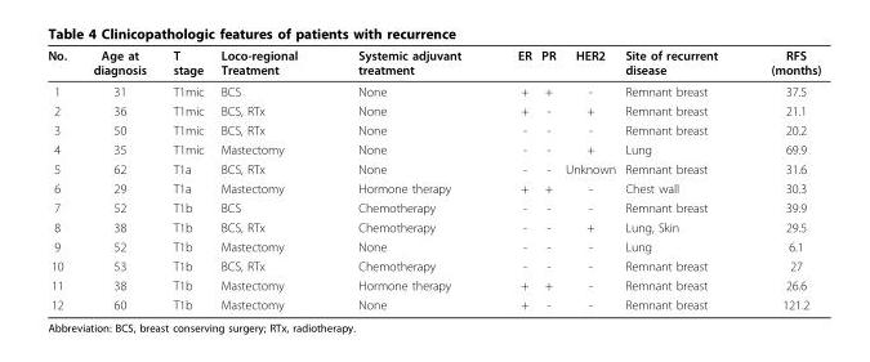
<table><thead><tr><td>No.</td><td>Age at diagnosis</td><td>T stage</td><td>Loco-regional Treatment</td><td>Systemic adjuvant treatment</td><td>ER</td><td>PR</td><td>HER2</td><td>Site of recurrent disease</td><td>RFS (months)</td></tr></thead><tbody><tr><td>1</td><td>31</td><td>T1mic</td><td>BCS</td><td>None</td><td>+</td><td>+</td><td>-</td><td>Remnant breast</td><td>37.5</td></tr><tr><td>2</td><td>36</td><td>T1mic</td><td>BCS, RTx</td><td>None</td><td>+</td><td>-</td><td>+</td><td>Remnant breast</td><td>21.1</td></tr><tr><td>3</td><td>50</td><td>T1mic</td><td>BCS, RTx</td><td>None</td><td>-</td><td>-</td><td>-</td><td>Remnant breast</td><td>20.2</td></tr><tr><td>4</td><td>35</td><td>T1mic</td><td>Mastectomy</td><td>None</td><td>-</td><td>-</td><td>+</td><td>Lung</td><td>69.9</td></tr><tr><td>5</td><td>62</td><td>T1a</td><td>BCS, RTx</td><td>None</td><td>-</td><td>-</td><td>Unknown</td><td>Remnant breast</td><td>31.6</td></tr><tr><td>6</td><td>29</td><td>T1a</td><td>Mastectomy</td><td>Hormone therapy</td><td>+</td><td>+</td><td>-</td><td>Chest wall</td><td>30.3</td></tr><tr><td>7</td><td>52</td><td>T1b</td><td>BCS</td><td>Chemotherapy</td><td>-</td><td>-</td><td>-</td><td>Remnant breast</td><td>39.9</td></tr><tr><td>8</td><td>38</td><td>T1b</td><td>BCS, RTx</td><td>Chemotherapy</td><td>-</td><td>-</td><td>+</td><td>Lung, Skin</td><td>29.5</td></tr><tr><td>9</td><td>52</td><td>T1b</td><td>Mastectomy</td><td>None</td><td>-</td><td>-</td><td>-</td><td>Lung</td><td>6.1</td></tr><tr><td>10</td><td>53</td><td>T1b</td><td>BCS, RTx</td><td>Chemotherapy</td><td>-</td><td>-</td><td>-</td><td>Remnant breast</td><td>27</td></tr><tr><td>11</td><td>38</td><td>T1b</td><td>Mastectomy</td><td>Hormone therapy</td><td>+</td><td>+</td><td>-</td><td>Remnant breast</td><td>26.6</td></tr><tr><td>12</td><td>60</td><td>T1b</td><td>Mastectomy</td><td>None</td><td>+</td><td>-</td><td>-</td><td>Remnant breast</td><td>121.2</td></tr></tbody></table>